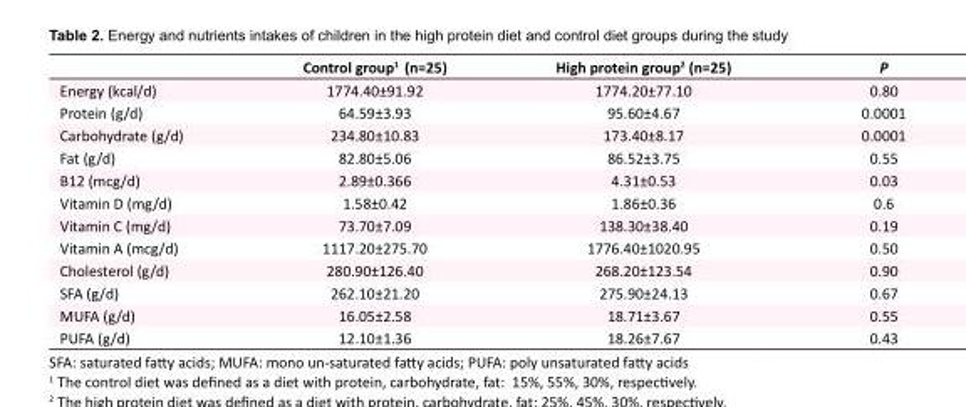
<table><thead><tr><td></td><td>Control group<sup>1</sup> (n=25)</td><td>High protein group<sup>2</sup> (n=25)</td><td>P</td></tr></thead><tbody><tr><td>Energy (kcal/d)</td><td>1774.40±91.92</td><td>1774.20±77.10</td><td>0.80</td></tr><tr><td>Protein (g/d)</td><td>64.59±3.93</td><td>95.60±4.67</td><td>0.0001</td></tr><tr><td>Carbohydrate (g/d)</td><td>234.80±10.83</td><td>173.40±8.17</td><td>0.0001</td></tr><tr><td>Fat (g/d)</td><td>82.80±5.06</td><td>86.52±3.75</td><td>0.55</td></tr><tr><td>B12 (mcg/d)</td><td>2.89±0.366</td><td>4.31±0.53</td><td>0.03</td></tr><tr><td>Vitamin D (mg/d)</td><td>1.58±0.42</td><td>1.86±0.36</td><td>0.6</td></tr><tr><td>Vitamin C (mg/d)</td><td>73.70±7.09</td><td>138.30±38.40</td><td>0.19</td></tr><tr><td>Vitamin A (mcg/d)</td><td>1117.20±275.70</td><td>1776.40±1020.95</td><td>0.50</td></tr><tr><td>Cholesterol (g/d)</td><td>280.90±126.40</td><td>268.20±123.54</td><td>0.90</td></tr><tr><td>SFA (g/d)</td><td>262.10±21.20</td><td>275.90±24.13</td><td>0.67</td></tr><tr><td>MUFA (g/d)</td><td>16.05±2.58</td><td>18.71±3.67</td><td>0.55</td></tr><tr><td>PUFA (g/d)</td><td>12.10±1.36</td><td>18.26±7.67</td><td>0.43</td></tr></tbody></table>